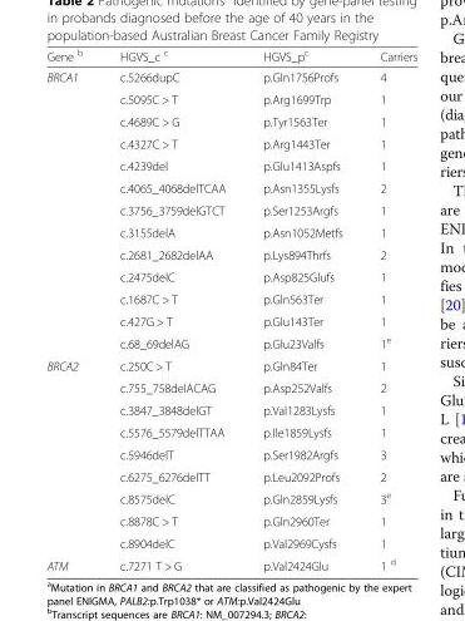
<table><thead><tr><td>Gene <sup>b</sup></td><td>HGVS_c <sup>c</sup></td><td>HGVS_p<sup>c</sup></td><td>Carriers</td></tr></thead><tbody><tr><td rowspan="13">BRCA1</td><td>c.5266dupC</td><td>p.Gln1756Profs</td><td>4</td></tr><tr><td>c.5095C &gt; T</td><td>p.Arg1699Trp</td><td>1</td></tr><tr><td>c.4689C &gt; G</td><td>p.Tyr1563Ter</td><td>1</td></tr><tr><td>c.4327C &gt; T</td><td>p.Arg1443Ter</td><td>1</td></tr><tr><td>c.4239del</td><td>p.Glu1413Aspfs</td><td>1</td></tr><tr><td>c.4065_4068delTCAA</td><td>p.Asn1355Lysfs</td><td>2</td></tr><tr><td>c.3756_3759delGTCT</td><td>p.Ser1253Argfs</td><td>1</td></tr><tr><td>c.3155delA</td><td>p.Asn1052Metfs</td><td>1</td></tr><tr><td>c.2681_2682delAA</td><td>p.Lys894Thrfs</td><td>2</td></tr><tr><td>c.2475delC</td><td>p.Asp825Glufs</td><td>1</td></tr><tr><td>c.1687C &gt; T</td><td>p.Gln563Ter</td><td>1</td></tr><tr><td>c.427G &gt; T</td><td>p.Glu143Ter</td><td>1</td></tr><tr><td>c.68_69delAG</td><td>p.Glu23Valfs</td><td>1<sup>e</sup></td></tr><tr><td rowspan="9">BRCA2</td><td>c.250C &gt; T</td><td>p.Gln84Ter</td><td>1</td></tr><tr><td>c.755_758delACAG</td><td>p.Asp252Valfs</td><td>2</td></tr><tr><td>c.3847_3848delGT</td><td>p.Val1283Lysfs</td><td>1</td></tr><tr><td>c.5576_5579delTTAA</td><td>p.Ile1859Lysfs</td><td>1</td></tr><tr><td>c.5946delT</td><td>p.Ser1982Argfs</td><td>3</td></tr><tr><td>c.6275_6276delTT</td><td>p.Leu2092Profs</td><td>2</td></tr><tr><td>c.8575delC</td><td>p.Gln2859Lysfs</td><td>3<sup>e</sup></td></tr><tr><td>c.8878C &gt; T</td><td>p.Gln2960Ter</td><td>1</td></tr><tr><td>c.8904delC</td><td>p.Val2969Cysfs</td><td>1</td></tr><tr><td>ATM</td><td>c.7271 T &gt; G</td><td>p.Val2424Glu</td><td>1 <sup>d</sup></td></tr></tbody></table>